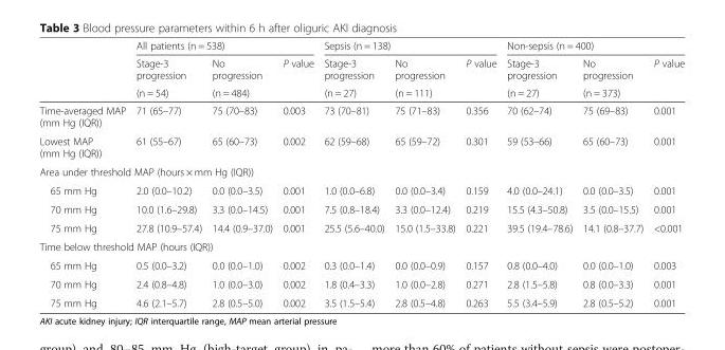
<table><thead><tr><td rowspan="3"></td><td colspan="3">All patients (n = 538)</td><td colspan="3">Sepsis (n = 138)</td><td colspan="3">Non-sepsis (n = 400)</td></tr><tr><td rowspan="2">Stage-3 progression (n = 54)</td><td rowspan="2">No progression (n = 484)</td><td rowspan="2">P value</td><td rowspan="2">Stage-3 progression (n = 27)</td><td rowspan="2">No progression (n = 111)</td><td rowspan="2">P value</td><td rowspan="2">Stage-3 progression (n = 27)</td><td rowspan="2">No progression (n = 373)</td><td rowspan="2">P value</td></tr><tr></tr></thead><tbody><tr><td>Time-averaged MAP (mm Hg (IQR))</td><td>71 (65–77)</td><td>75 (70–83)</td><td>0.003</td><td>73 (70–81)</td><td>75 (71–83)</td><td>0.356</td><td>70 (62–74)</td><td>75 (69–83)</td><td>0.001</td></tr><tr><td>Lowest MAP (mm Hg (IQR))</td><td>61 (55–67)</td><td>65 (60–73)</td><td>0.002</td><td>62 (59–68)</td><td>65 (59–72)</td><td>0.301</td><td>59 (53–66)</td><td>65 (60–73)</td><td>0.001</td></tr><tr><td colspan="10">Area under threshold MAP (hours × mm Hg (IQR))</td></tr><tr><td>65 mm Hg</td><td>2.0 (0.0–10.2)</td><td>0.0 (0.0–3.5)</td><td>0.001</td><td>1.0 (0.0–6.8)</td><td>0.0 (0.0–3.4)</td><td>0.159</td><td>4.0 (0.0–24.1)</td><td>0.0 (0.0–3.5)</td><td>0.001</td></tr><tr><td>70 mm Hg</td><td>10.0 (1.6–29.8)</td><td>3.3 (0.0–14.5)</td><td>0.001</td><td>7.5 (0.8–18.4)</td><td>3.3 (0.0–12.4)</td><td>0.219</td><td>15.5 (4.3–50.8)</td><td>3.5 (0.0–15.5)</td><td>0.001</td></tr><tr><td>75 mm Hg</td><td>27.8 (10.9–57.4)</td><td>14.4 (0.9–37.0)</td><td>0.001</td><td>25.5 (5.6–40.0)</td><td>15.0 (1.5–33.8)</td><td>0.221</td><td>39.5 (19.4–78.6)</td><td>14.1 (0.8–37.7)</td><td>&lt;0.001</td></tr><tr><td colspan="10">Time below threshold MAP (hours (IQR))</td></tr><tr><td>65 mm Hg</td><td>0.5 (0.0–3.2)</td><td>0.0 (0.0–1.0)</td><td>0.002</td><td>0.3 (0.0–1.4)</td><td>0.0 (0.0–0.9)</td><td>0.157</td><td>0.8 (0.0–4.0)</td><td>0.0 (0.0–1.0)</td><td>0.003</td></tr><tr><td>70 mm Hg</td><td>2.4 (0.8–4.8)</td><td>1.0 (0.0–3.0)</td><td>0.002</td><td>1.8 (0.4–3.3)</td><td>1.0 (0.0–2.8)</td><td>0.271</td><td>2.8 (1.5–5.8)</td><td>0.8 (0.0–3.3)</td><td>0.001</td></tr><tr><td>75 mm Hg</td><td>4.6 (2.1–5.7)</td><td>2.8 (0.5–5.0)</td><td>0.002</td><td>3.5 (1.5–5.4)</td><td>2.8 (0.5–4.8)</td><td>0.263</td><td>5.5 (3.4–5.9)</td><td>2.8 (0.5–5.2)</td><td>0.001</td></tr></tbody></table>